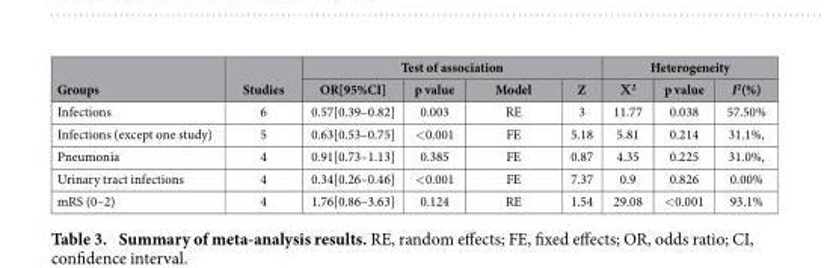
<table><thead><tr><td rowspan="2">Groups</td><td rowspan="2">Studies</td><td colspan="4">Test of association</td><td colspan="3">Heterogeneity</td></tr><tr><td>OR[95%CI]</td><td>p value</td><td>Model</td><td>Z</td><td>Χ<sup>2</sup></td><td>p value</td><td>I<sup>2</sup>(%)</td></tr></thead><tbody><tr><td>Infections</td><td>6</td><td>0.57[0.39–0.82]</td><td>0.003</td><td>RE</td><td>3</td><td>11.77</td><td>0.038</td><td>57.50%</td></tr><tr><td>Infections (except one study)</td><td>5</td><td>0.63[0.53–0.75]</td><td>&lt; 0.001</td><td>FE</td><td>5.18</td><td>5.81</td><td>0.214</td><td>31.1%,</td></tr><tr><td>Pneumonia</td><td>4</td><td>0.91[0.73–1.13]</td><td>0.385</td><td>FE</td><td>0.87</td><td>4.35</td><td>0.225</td><td>31.0%,</td></tr><tr><td>Urinary tract infections</td><td>4</td><td>0.34[0.26–0.46]</td><td>&lt; 0.001</td><td>FE</td><td>7.37</td><td>0.9</td><td>0.826</td><td>0.00%</td></tr><tr><td>mRS (0–2)</td><td>4</td><td>1.76[0.86–3.63]</td><td>0.124</td><td>RE</td><td>1.54</td><td>29.08</td><td>&lt; 0.001</td><td>93.1%</td></tr></tbody></table>